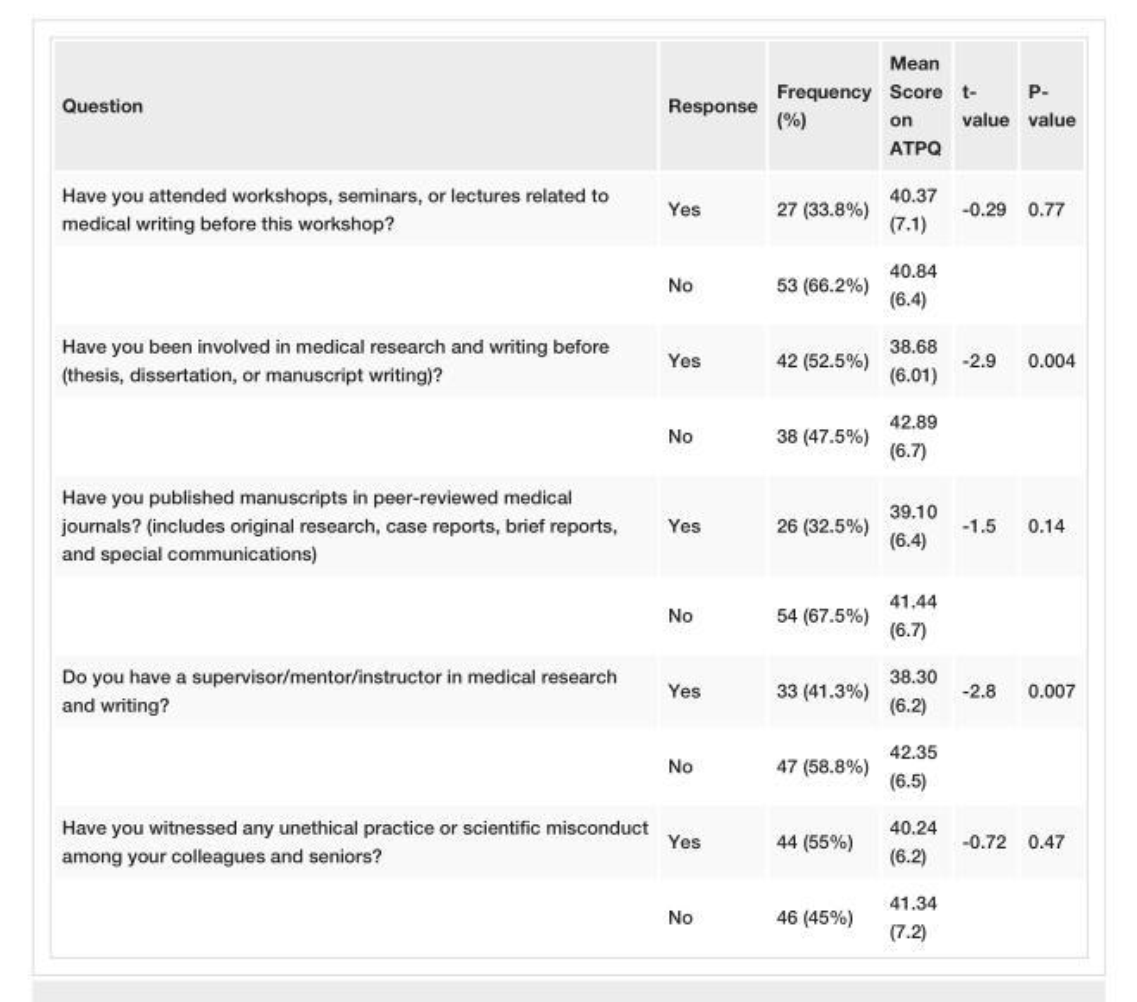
<table><tbody><tr><td>Question</td><td>Response</td><td>Frequency (%)</td><td>Mean Score on ATPQ</td><td>t- value</td><td>P- value</td></tr><tr><td rowspan="2">Have you attended workshops, seminars, or lectures related to medical writing before this workshop?</td><td>Yes</td><td>27 (33.8%)</td><td>40.37 (7.1)</td><td>-0.29</td><td>0.77</td></tr><tr><td>No</td><td>53 (66.2%)</td><td>40.84 (6.4)</td><td></td><td></td></tr><tr><td rowspan="2">Have you been involved in medical research and writing before (thesis, dissertation, or manuscript writing)?</td><td>Yes</td><td>42 (52.5%)</td><td>38.68 (6.01)</td><td>-2.9</td><td>0.004</td></tr><tr><td>No</td><td>38 (47.5%)</td><td>42.89 (6.7)</td><td></td><td></td></tr><tr><td rowspan="2">Have you published manuscripts in peer-reviewed medical journals? (includes original research, case reports, brief reports, and special communications)</td><td>Yes</td><td>26 (32.5%)</td><td>39.10 (6.4)</td><td>-1.5</td><td>0.14</td></tr><tr><td>No</td><td>54 (67.5%)</td><td>41.44 (6.7)</td><td></td><td></td></tr><tr><td rowspan="2">Do you have a supervisor/mentor/instructor in medical research and writing?</td><td>Yes</td><td>33 (41.3%)</td><td>38.30 (6.2)</td><td>-2.8</td><td>0.007</td></tr><tr><td>No</td><td>47 (58.8%)</td><td>42.35 (6.5)</td><td></td><td></td></tr><tr><td rowspan="2">Have you witnessed any unethical practice or scientific misconduct among your colleagues and seniors?</td><td>Yes</td><td>44 (55%)</td><td>40.24 (6.2)</td><td>-0.72</td><td>0.47</td></tr><tr><td>No</td><td>46 (45%)</td><td>41.34 (7.2)</td><td></td><td></td></tr></tbody></table>